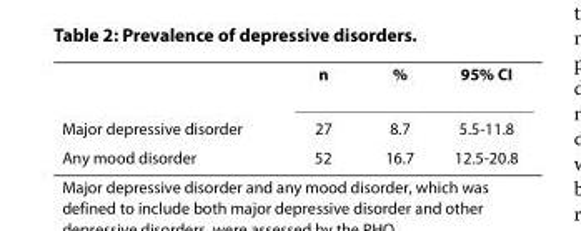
<table><thead><tr><td></td><td>n</td><td>%</td><td>95% CI</td></tr></thead><tbody><tr><td>Major depressive disorder</td><td>27</td><td>8.7</td><td>5.5-11.8</td></tr><tr><td>Any mood disorder</td><td>52</td><td>16.7</td><td>12.5-20.8</td></tr></tbody></table>